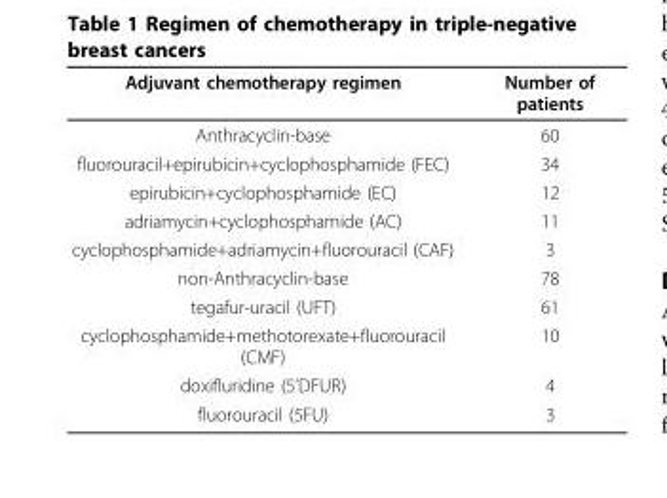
<table><thead><tr><td>Adjuvant chemotherapy regimen</td><td>Number of patients</td></tr></thead><tbody><tr><td>Anthracyclin-base</td><td>60</td></tr><tr><td>fluorouracil+epirubicin+cyclophosphamide (FEC)</td><td>34</td></tr><tr><td>epirubicin+cyclophosphamide (EC)</td><td>12</td></tr><tr><td>adriamycin+cyclophosphamide (AC)</td><td>11</td></tr><tr><td>cyclophosphamide+adriamycin+fluorouracil (CAF)</td><td>3</td></tr><tr><td>non-Anthracyclin-base</td><td>78</td></tr><tr><td>tegafur-uracil (UFT)</td><td>61</td></tr><tr><td>cyclophosphamide+methotorexate+fluorouracil (CMF)</td><td>10</td></tr><tr><td>doxifluridine (5’DFUR)</td><td>4</td></tr><tr><td>fluorouracil (5FU)</td><td>3</td></tr></tbody></table>